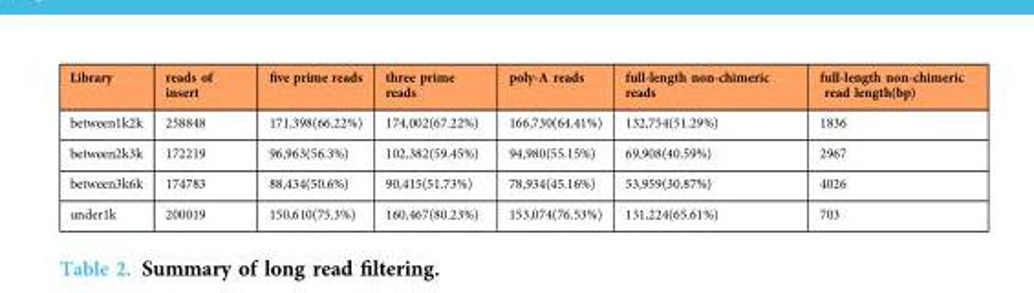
<table><thead><tr><td>Library</td><td>reads of insert</td><td>five prime reads</td><td>three prime reads</td><td>poly-A reads</td><td>full-length non-chimeric reads</td><td>full-length non-chimeric read length(bp)</td></tr></thead><tbody><tr><td>between1k2k</td><td>258848</td><td>171,398(66.22%)</td><td>174,002(67.22%)</td><td>166,730(64.41%)</td><td>132,754(51.29%)</td><td>1836</td></tr><tr><td>between2k3k</td><td>172219</td><td>96,963(56.3%)</td><td>102,382(59.45%)</td><td>94,980(55.15%)</td><td>69,908(40.59%)</td><td>2967</td></tr><tr><td>between3k6k</td><td>174783</td><td>88,434(50.6%)</td><td>90,415(51.73%)</td><td>78,934(45.16%)</td><td>53,959(30.87%)</td><td>4026</td></tr><tr><td>under1k</td><td>200019</td><td>150,610(75.3%)</td><td>160,467(80.23%)</td><td>153,074(76.53%)</td><td>131,224(65.61%)</td><td>703</td></tr></tbody></table>